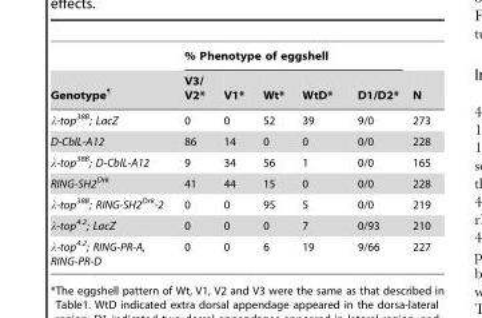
<table><thead><tr><td rowspan="2">Genotype¶</td><td colspan="5">% Phenotype of eggshell</td><td rowspan="2">N</td></tr><tr><td>V3/ V2*</td><td>V1*</td><td>Wt*</td><td>WtD*</td><td>D1/D2*</td></tr></thead><tbody><tr><td>λ-top<sup>38B</sup>; LacZ</td><td>0</td><td>0</td><td>52</td><td>39</td><td>9/0</td><td>273</td></tr><tr><td>D-CblL-A12</td><td>86</td><td>14</td><td>0</td><td>0</td><td>0/0</td><td>228</td></tr><tr><td>λ-top<sup>38B</sup>; D-CblL-A12</td><td>9</td><td>34</td><td>56</td><td>1</td><td>0/0</td><td>165</td></tr><tr><td>RING-SH2<sup>Drk</sup></td><td>41</td><td>44</td><td>15</td><td>0</td><td>0/0</td><td>228</td></tr><tr><td>λ-top<sup>38B</sup>; RING-SH2<sup>Drk</sup>-2</td><td>0</td><td>0</td><td>95</td><td>5</td><td>0/0</td><td>219</td></tr><tr><td>λ-top<sup>4.2</sup>; LacZ</td><td>0</td><td>0</td><td>0</td><td>7</td><td>0/93</td><td>210</td></tr><tr><td>λ-top<sup>4.2</sup>; RING-PR-A, RING-PR-D</td><td>0</td><td>0</td><td>6</td><td>19</td><td>9/66</td><td>227</td></tr></tbody></table>